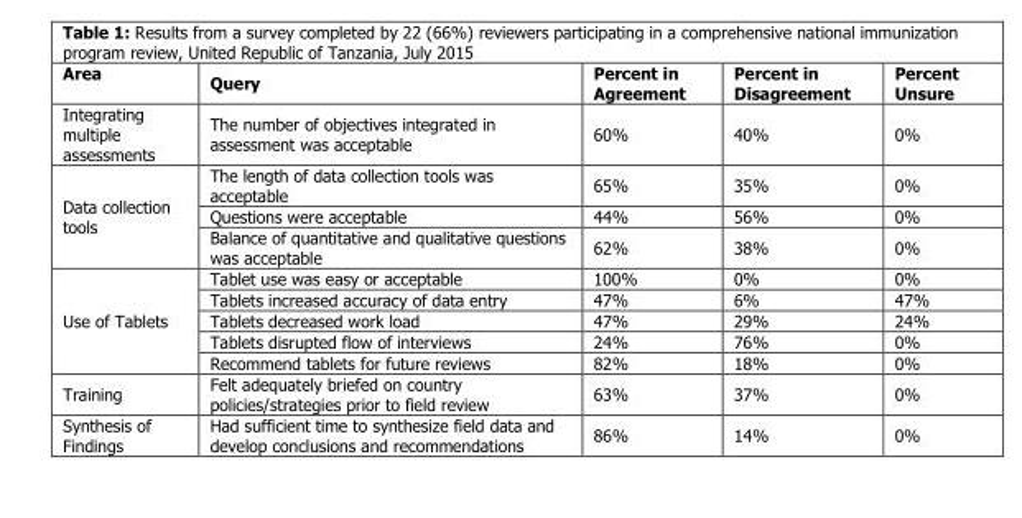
<table><thead><tr><td>Area</td><td>Query</td><td>Percent in Agreement</td><td>Percent in Disagreement</td><td>Percent Unsure</td></tr></thead><tbody><tr><td>Integrating multiple assessments</td><td>The number of objectives integrated in assessment was acceptable</td><td>60%</td><td>40%</td><td>0%</td></tr><tr><td rowspan="3">Data collection tools</td><td>The length of data collection tools was acceptable</td><td>65%</td><td>35%</td><td>0%</td></tr><tr><td>Questions were acceptable</td><td>44%</td><td>56%</td><td>0%</td></tr><tr><td>Balance of quantitative and qualitative questions was acceptable</td><td>62%</td><td>38%</td><td>0%</td></tr><tr><td rowspan="5">Use of Tablets</td><td>Tablet use was easy or acceptable</td><td>100%</td><td>0%</td><td>0%</td></tr><tr><td>Tablets increased accuracy of data entry</td><td>47%</td><td>6%</td><td>47%</td></tr><tr><td>Tablets decreased work load</td><td>47%</td><td>29%</td><td>24%</td></tr><tr><td>Tablets disrupted flow of interviews</td><td>24%</td><td>76%</td><td>0%</td></tr><tr><td>Recommend tablets for future reviews</td><td>82%</td><td>18%</td><td>0%</td></tr><tr><td>Training</td><td>Felt adequately briefed on country policies/strategies prior to field review</td><td>63%</td><td>37%</td><td>0%</td></tr><tr><td>Synthesis of Findings</td><td>Had sufficient time to synthesize field data and develop conclusions and recommendations</td><td>86%</td><td>14%</td><td>0%</td></tr></tbody></table>